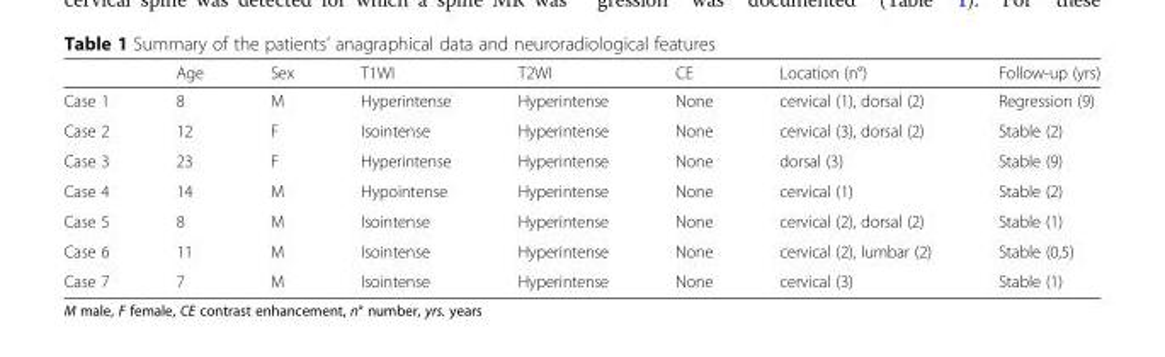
<table><thead><tr><td></td><td>Age</td><td>Sex</td><td>T1WI</td><td>T2WI</td><td>CE</td><td>Location (n°)</td><td>Follow-up (yrs)</td></tr></thead><tbody><tr><td>Case 1</td><td>8</td><td>M</td><td>Hyperintense</td><td>Hyperintense</td><td>None</td><td>cervical (1), dorsal (2)</td><td>Regression (9)</td></tr><tr><td>Case 2</td><td>12</td><td>F</td><td>Isointense</td><td>Hyperintense</td><td>None</td><td>cervical (3), dorsal (2)</td><td>Stable (2)</td></tr><tr><td>Case 3</td><td>23</td><td>F</td><td>Hyperintense</td><td>Hyperintense</td><td>None</td><td>dorsal (3)</td><td>Stable (9)</td></tr><tr><td>Case 4</td><td>14</td><td>M</td><td>Hypointense</td><td>Hyperintense</td><td>None</td><td>cervical (1)</td><td>Stable (2)</td></tr><tr><td>Case 5</td><td>8</td><td>M</td><td>Isointense</td><td>Hyperintense</td><td>None</td><td>cervical (2), dorsal (2)</td><td>Stable (1)</td></tr><tr><td>Case 6</td><td>11</td><td>M</td><td>Isointense</td><td>Hyperintense</td><td>None</td><td>cervical (2), lumbar (2)</td><td>Stable (0,5)</td></tr><tr><td>Case 7</td><td>7</td><td>M</td><td>Isointense</td><td>Hyperintense</td><td>None</td><td>cervical (3)</td><td>Stable (1)</td></tr></tbody></table>